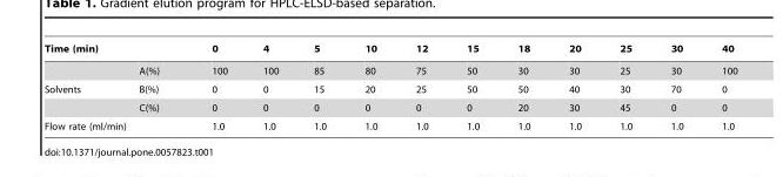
<table><thead><tr><td>Time (min)</td><td></td><td>0</td><td>4</td><td>5</td><td>10</td><td>12</td><td>15</td><td>18</td><td>20</td><td>25</td><td>30</td><td>40</td></tr></thead><tbody><tr><td></td><td>A(%)</td><td>100</td><td>100</td><td>85</td><td>80</td><td>75</td><td>50</td><td>30</td><td>30</td><td>25</td><td>30</td><td>100</td></tr><tr><td rowspan="2">Solvents</td><td>B(%)</td><td>0</td><td>0</td><td>15</td><td>20</td><td>25</td><td>50</td><td>50</td><td>40</td><td>30</td><td>70</td><td>0</td></tr><tr><td>C(%)</td><td>0</td><td>0</td><td>0</td><td>0</td><td>0</td><td>0</td><td>20</td><td>30</td><td>45</td><td>0</td><td>0</td></tr><tr><td>Flow rate (ml/min)</td><td></td><td>1.0</td><td>1.0</td><td>1.0</td><td>1.0</td><td>1.0</td><td>1.0</td><td>1.0</td><td>1.0</td><td>1.0</td><td>1.0</td><td>1.0</td></tr></tbody></table>